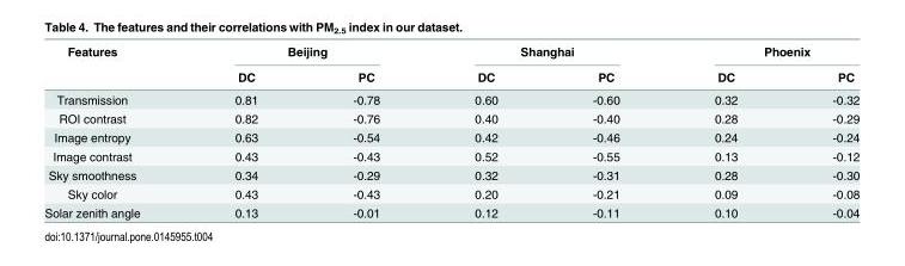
<table><thead><tr><td rowspan="2">Features</td><td colspan="2">Beijing</td><td colspan="2">Shanghai</td><td colspan="2">Phoenix</td></tr><tr><td>DC</td><td>PC</td><td>DC</td><td>PC</td><td>DC</td><td>PC</td></tr></thead><tbody><tr><td>Transmission</td><td>0.81</td><td>-0.78</td><td>0.60</td><td>-0.60</td><td>0.32</td><td>-0.32</td></tr><tr><td>ROI contrast</td><td>0.82</td><td>-0.76</td><td>0.40</td><td>-0.40</td><td>0.28</td><td>-0.29</td></tr><tr><td>Image entropy</td><td>0.63</td><td>-0.54</td><td>0.42</td><td>-0.46</td><td>0.24</td><td>-0.24</td></tr><tr><td>Image contrast</td><td>0.43</td><td>-0.43</td><td>0.52</td><td>-0.55</td><td>0.13</td><td>-0.12</td></tr><tr><td>Sky smoothness</td><td>0.34</td><td>-0.29</td><td>0.32</td><td>-0.31</td><td>0.28</td><td>-0.30</td></tr><tr><td>Sky color</td><td>0.43</td><td>-0.43</td><td>0.20</td><td>-0.21</td><td>0.09</td><td>-0.08</td></tr><tr><td>Solar zenith angle</td><td>0.13</td><td>-0.01</td><td>0.12</td><td>-0.11</td><td>0.10</td><td>-0.04</td></tr></tbody></table>